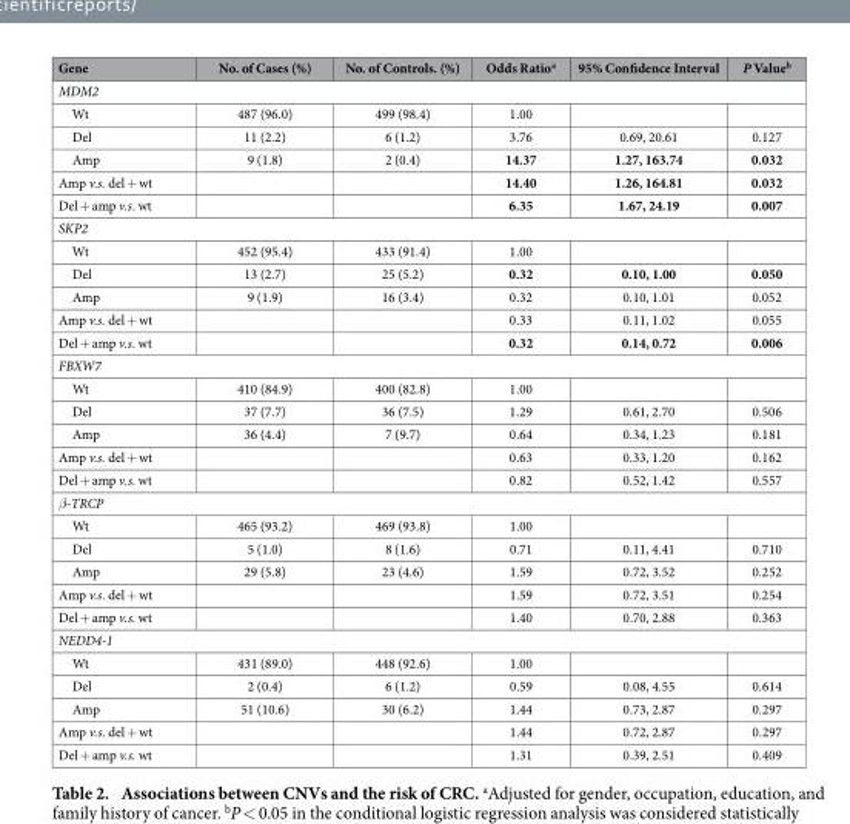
<table><thead><tr><td>Gene</td><td>No. of Cases (%)</td><td>No. of Controls. (%)</td><td>Odds Ratio<sup>a</sup></td><td>95% Confidence Interval</td><td>P Value<sup>b</sup></td></tr></thead><tbody><tr><td colspan="6">MDM2</td></tr><tr><td>Wt</td><td>487 (96.0)</td><td>499 (98.4)</td><td>1.00</td><td></td><td></td></tr><tr><td>Del</td><td>11 (2.2)</td><td>6 (1.2)</td><td>3.76</td><td>0.69, 20.61</td><td>0.127</td></tr><tr><td>Amp</td><td>9 (1.8)</td><td>2 (0.4)</td><td>14.37</td><td>1.27, 163.74</td><td>0.032</td></tr><tr><td>Amp v.s. del + wt</td><td></td><td></td><td>14.40</td><td>1.26, 164.81</td><td>0.032</td></tr><tr><td>Del + amp v.s. wt</td><td></td><td></td><td>6.35</td><td>1.67, 24.19</td><td>0.007</td></tr><tr><td colspan="6">SKP2</td></tr><tr><td>Wt</td><td>452 (95.4)</td><td>433 (91.4)</td><td>1.00</td><td></td><td></td></tr><tr><td>Del</td><td>13 (2.7)</td><td>25 (5.2)</td><td>0.32</td><td>0.10, 1.00</td><td>0.050</td></tr><tr><td>Amp</td><td>9 (1.9)</td><td>16 (3.4)</td><td>0.32</td><td>0.10, 1.01</td><td>0.052</td></tr><tr><td>Amp v.s. del + wt</td><td></td><td></td><td>0.33</td><td>0.11, 1.02</td><td>0.055</td></tr><tr><td>Del + amp v.s. wt</td><td></td><td></td><td>0.32</td><td>0.14, 0.72</td><td>0.006</td></tr><tr><td colspan="6">FBXW7</td></tr><tr><td>Wt</td><td>410 (84.9)</td><td>400 (82.8)</td><td>1.00</td><td></td><td></td></tr><tr><td>Del</td><td>37 (7.7)</td><td>36 (7.5)</td><td>1.29</td><td>0.61, 2.70</td><td>0.506</td></tr><tr><td>Amp</td><td>36 (4.4)</td><td>7 (9.7)</td><td>0.64</td><td>0.34, 1.23</td><td>0.181</td></tr><tr><td>Amp v.s. del + wt</td><td></td><td></td><td>0.63</td><td>0.33, 1.20</td><td>0.162</td></tr><tr><td>Del + amp v.s. wt</td><td></td><td></td><td>0.82</td><td>0.52, 1.42</td><td>0.557</td></tr><tr><td colspan="6">β-TRCP</td></tr><tr><td>Wt</td><td>465 (93.2)</td><td>469 (93.8)</td><td>1.00</td><td></td><td></td></tr><tr><td>Del</td><td>5 (1.0)</td><td>8 (1.6)</td><td>0.71</td><td>0.11, 4.41</td><td>0.710</td></tr><tr><td>Amp</td><td>29 (5.8)</td><td>23 (4.6)</td><td>1.59</td><td>0.72, 3.52</td><td>0.252</td></tr><tr><td>Amp v.s. del + wt</td><td></td><td></td><td>1.59</td><td>0.72, 3.51</td><td>0.254</td></tr><tr><td>Del + amp v.s. wt</td><td></td><td></td><td>1.40</td><td>0.70, 2.88</td><td>0.363</td></tr><tr><td colspan="6">NEDD4-1</td></tr><tr><td>Wt</td><td>431 (89.0)</td><td>448 (92.6)</td><td>1.00</td><td></td><td></td></tr><tr><td>Del</td><td>2 (0.4)</td><td>6 (1.2)</td><td>0.59</td><td>0.08, 4.55</td><td>0.614</td></tr><tr><td>Amp</td><td>51 (10.6)</td><td>30 (6.2)</td><td>1.44</td><td>0.73, 2.87</td><td>0.297</td></tr><tr><td>Amp v.s. del + wt</td><td></td><td></td><td>1.44</td><td>0.72, 2.87</td><td>0.297</td></tr><tr><td>Del + amp v.s. wt</td><td></td><td></td><td>1.31</td><td>0.39, 2.51</td><td>0.409</td></tr></tbody></table>